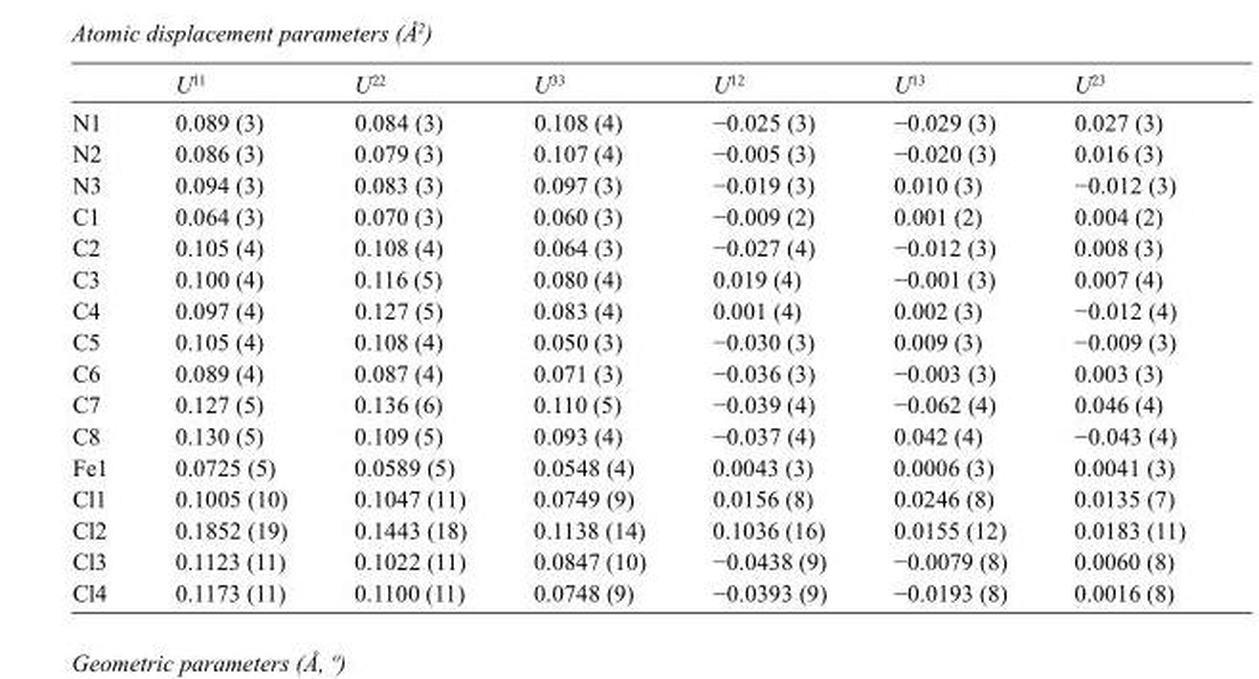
<table><thead><tr><td></td><td>U<sup>11</sup></td><td>U<sup>22</sup></td><td>U<sup>33</sup></td><td>U<sup>12</sup></td><td>U<sup>13</sup></td><td>U<sup>23</sup></td></tr></thead><tbody><tr><td>N1</td><td>0.089 (3)</td><td>0.084 (3)</td><td>0.108 (4)</td><td>−0.025 (3)</td><td>−0.029 (3)</td><td>0.027 (3)</td></tr><tr><td>N2</td><td>0.086 (3)</td><td>0.079 (3)</td><td>0.107 (4)</td><td>−0.005 (3)</td><td>−0.020 (3)</td><td>0.016 (3)</td></tr><tr><td>N3</td><td>0.094 (3)</td><td>0.083 (3)</td><td>0.097 (3)</td><td>−0.019 (3)</td><td>0.010 (3)</td><td>−0.012 (3)</td></tr><tr><td>C1</td><td>0.064 (3)</td><td>0.070 (3)</td><td>0.060 (3)</td><td>−0.009 (2)</td><td>0.001 (2)</td><td>0.004 (2)</td></tr><tr><td>C2</td><td>0.105 (4)</td><td>0.108 (4)</td><td>0.064 (3)</td><td>−0.027 (4)</td><td>−0.012 (3)</td><td>0.008 (3)</td></tr><tr><td>C3</td><td>0.100 (4)</td><td>0.116 (5)</td><td>0.080 (4)</td><td>0.019 (4)</td><td>−0.001 (3)</td><td>0.007 (4)</td></tr><tr><td>C4</td><td>0.097 (4)</td><td>0.127 (5)</td><td>0.083 (4)</td><td>0.001 (4)</td><td>0.002 (3)</td><td>−0.012 (4)</td></tr><tr><td>C5</td><td>0.105 (4)</td><td>0.108 (4)</td><td>0.050 (3)</td><td>−0.030 (3)</td><td>0.009 (3)</td><td>−0.009 (3)</td></tr><tr><td>C6</td><td>0.089 (4)</td><td>0.087 (4)</td><td>0.071 (3)</td><td>−0.036 (3)</td><td>−0.003 (3)</td><td>0.003 (3)</td></tr><tr><td>C7</td><td>0.127 (5)</td><td>0.136 (6)</td><td>0.110 (5)</td><td>−0.039 (4)</td><td>−0.062 (4)</td><td>0.046 (4)</td></tr><tr><td>C8</td><td>0.130 (5)</td><td>0.109 (5)</td><td>0.093 (4)</td><td>−0.037 (4)</td><td>0.042 (4)</td><td>−0.043 (4)</td></tr><tr><td>Fe1</td><td>0.0725 (5)</td><td>0.0589 (5)</td><td>0.0548 (4)</td><td>0.0043 (3)</td><td>0.0006 (3)</td><td>0.0041 (3)</td></tr><tr><td>Cl1</td><td>0.1005 (10)</td><td>0.1047 (11)</td><td>0.0749 (9)</td><td>0.0156 (8)</td><td>0.0246 (8)</td><td>0.0135 (7)</td></tr><tr><td>Cl2</td><td>0.1852 (19)</td><td>0.1443 (18)</td><td>0.1138 (14)</td><td>0.1036 (16)</td><td>0.0155 (12)</td><td>0.0183 (11)</td></tr><tr><td>Cl3</td><td>0.1123 (11)</td><td>0.1022 (11)</td><td>0.0847 (10)</td><td>−0.0438 (9)</td><td>−0.0079 (8)</td><td>0.0060 (8)</td></tr><tr><td>Cl4</td><td>0.1173 (11)</td><td>0.1100 (11)</td><td>0.0748 (9)</td><td>−0.0393 (9)</td><td>−0.0193 (8)</td><td>0.0016 (8)</td></tr></tbody></table>